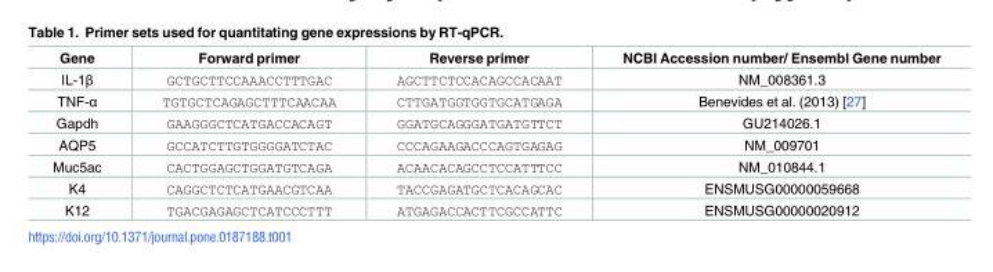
<table><thead><tr><td>Gene</td><td>Forward primer</td><td>Reverse primer</td><td>NCBI Accession number/ Ensembl Gene number</td></tr></thead><tbody><tr><td>IL-1β</td><td>GCTGCTTCCAAACCTTTGAC</td><td>AGCTTCTCCACAGCCACAAT</td><td>NM_008361.3</td></tr><tr><td>TNF-α</td><td>TGTGCTCAGAGCTTTCAACAA</td><td>CTTGATGGTGGTGCATGAGA</td><td>Benevides et al. (2013) [27]</td></tr><tr><td>Gapdh</td><td>GAAGGGCTCATGACCACAGT</td><td>GGATGCAGGGATGATGTTCT</td><td>GU214026.1</td></tr><tr><td>AQP5</td><td>GCCATCTTGTGGGGATCTAC</td><td>CCCAGAAGACCCAGTGAGAG</td><td>NM_009701</td></tr><tr><td>Muc5ac</td><td>CACTGGAGCTGGATGTCAGA</td><td>ACAACACAGCCTCCATTTCC</td><td>NM_010844.1</td></tr><tr><td>K4</td><td>CAGGCTCTCATGAACGTCAA</td><td>TACCGAGATGCTCACAGCAC</td><td>ENSMUSG00000059668</td></tr><tr><td>K12</td><td>TGACGAGAGCTCATCCCTTT</td><td>ATGAGACCACTTCGCCATTC</td><td>ENSMUSG00000020912</td></tr></tbody></table>